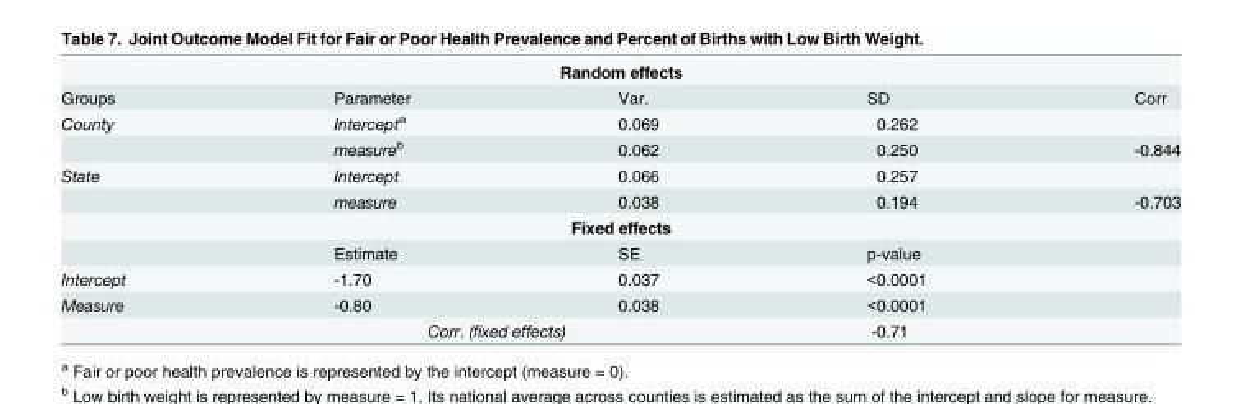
<table><tbody><tr><td colspan="5">Random effects</td></tr><tr><td>Groups</td><td>Parameter</td><td>Var.</td><td>SD</td><td>Corr</td></tr><tr><td rowspan="2">County</td><td>Intercept<sup>a</sup></td><td>0.069</td><td>0.262</td><td></td></tr><tr><td>measure<sup>b</sup></td><td>0.062</td><td>0.250</td><td>-0.844</td></tr><tr><td rowspan="2">State</td><td>Intercept</td><td>0.066</td><td>0.257</td><td></td></tr><tr><td>measure</td><td>0.038</td><td>0.194</td><td>-0.703</td></tr><tr><td colspan="5">Fixed effects</td></tr><tr><td></td><td>Estimate</td><td>SE</td><td>p-value</td><td></td></tr><tr><td>Intercept</td><td>-1.70</td><td>0.037</td><td>&lt;0.0001</td><td></td></tr><tr><td rowspan="2">Measure</td><td>-0.80</td><td>0.038</td><td>&lt;0.0001</td><td></td></tr><tr><td colspan="2">Corr. (fixed effects)</td><td>-0.71</td><td></td></tr></tbody></table>